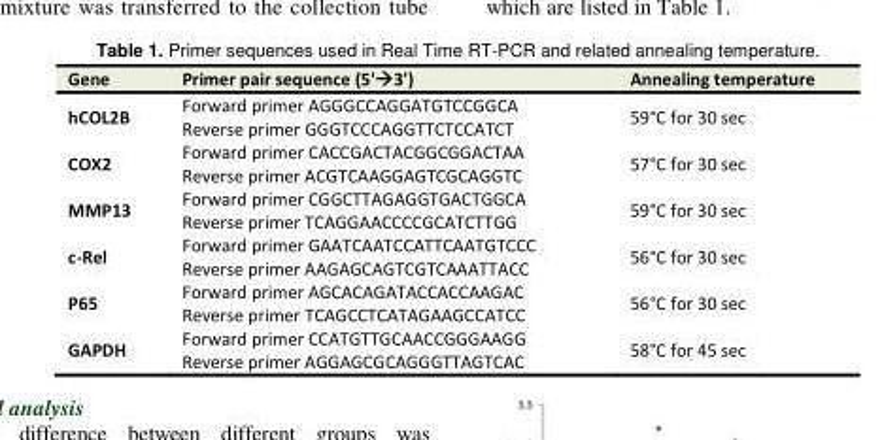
<table><tbody><tr><td>Gene</td><td>Primer pair sequence (5&#x27;à3&#x27;)</td><td>Annealing temperature</td></tr><tr><td>hCOL2B</td><td>Forward primer AGGGCCAGGATGTCCGGCA Reverse primer GGGTCCCAGGTTCTCCATCT</td><td>° 95 C for 30 sec</td></tr><tr><td>COX2</td><td>Forward primer CACCGACTACGGCGGACTAA Reverse primer ACGTCAAGGAGTCGCAGGTC</td><td>57°C for 30 sec</td></tr><tr><td>MMP13</td><td>Forward primer CGGCTTAGAGGTGACTGGCA Reverse primer TCAGGAACCCCGCATCTTGG</td><td>° 95 C for 30 sec</td></tr><tr><td>c-Rel</td><td>Forward primer GAATCAATCCATTCAATGTCCC Reverse primer AAGAGCAGTCGTCAAATTACC</td><td>56°C for 30 sec</td></tr><tr><td>P65</td><td>Forward primer AGCACAGATACCACCAAGAC Reverse primer TCAGCCTCATAGAAGCCATCC</td><td>56°C for 30 sec</td></tr><tr><td>GAPDH</td><td>Forward primer CCATGTTGCAACCGGGAAGG Reverse primer AGGAGCGCAGGGTTAGTCAC</td><td>58°C for 45 sec</td></tr></tbody></table>